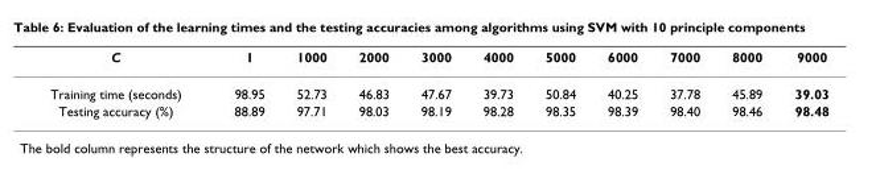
<table><thead><tr><td>C</td><td>1</td><td>1000</td><td>2000</td><td>3000</td><td>4000</td><td>5000</td><td>6000</td><td>7000</td><td>8000</td><td>9000</td></tr></thead><tbody><tr><td>Training time (seconds)</td><td>98.95</td><td>52.73</td><td>46.83</td><td>47.67</td><td>39.73</td><td>50.84</td><td>40.25</td><td>37.78</td><td>45.89</td><td>39.03</td></tr><tr><td>Testing accuracy (%)</td><td>88.89</td><td>97.71</td><td>98.03</td><td>98.19</td><td>98.28</td><td>98.35</td><td>98.39</td><td>98.40</td><td>98.46</td><td>98.48</td></tr></tbody></table>